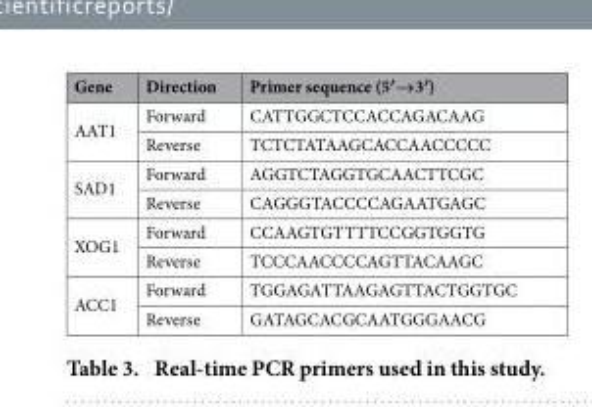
<table><thead><tr><td>Gene</td><td>Direction</td><td>Primer sequence (5′→3′)</td></tr></thead><tbody><tr><td rowspan="2">AAT1</td><td>Forward</td><td>CATTGGCTCCACCAGACAAG</td></tr><tr><td>Reverse</td><td>TCTCTATAAGCACCAACCCCC</td></tr><tr><td rowspan="2">SAD1</td><td>Forward</td><td>AGGTCTAGGTGCAACTTCGC</td></tr><tr><td>Reverse</td><td>CAGGGTACCCCAGAATGAGC</td></tr><tr><td rowspan="2">XOG1</td><td>Forward</td><td>CCAAGTGTTTTCCGGTGGTG</td></tr><tr><td>Reverse</td><td>TCCCAACCCCAGTTACAAGC</td></tr><tr><td rowspan="2">ACC1</td><td>Forward</td><td>TGGAGATTAAGAGTTACTGGTGC</td></tr><tr><td>Reverse</td><td>GATAGCACGCAATGGGAACG</td></tr></tbody></table>